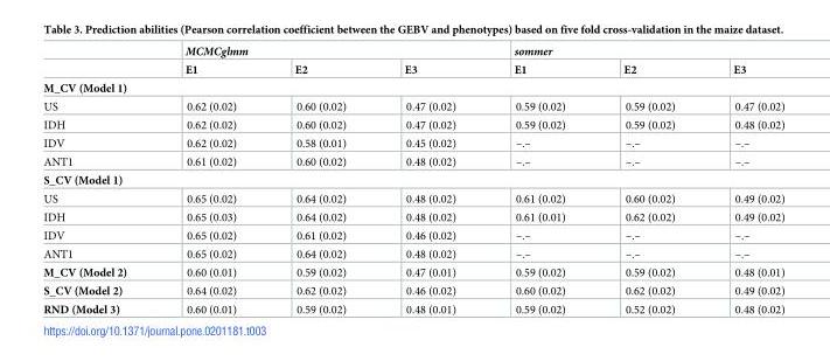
<table><thead><tr><td rowspan="2"></td><td colspan="3">MCMCglmm</td><td colspan="3">sommer</td></tr><tr><td>E1</td><td>E2</td><td>E3</td><td>E1</td><td>E2</td><td>E3</td></tr></thead><tbody><tr><td colspan="7">M_CV (Model 1)</td></tr><tr><td>US</td><td>0.62 (0.02)</td><td>0.60 (0.02)</td><td>0.47 (0.02)</td><td>0.59 (0.02)</td><td>0.59 (0.02)</td><td>0.47 (0.02)</td></tr><tr><td>IDH</td><td>0.62 (0.02)</td><td>0.60 (0.02)</td><td>0.47 (0.02)</td><td>0.59 (0.02)</td><td>0.59 (0.02)</td><td>0.48 (0.02)</td></tr><tr><td>IDV</td><td>0.62 (0.02)</td><td>0.58 (0.01)</td><td>0.45 (0.02)</td><td>–.–</td><td>–.–</td><td>–.–</td></tr><tr><td>ANT1</td><td>0.61 (0.02)</td><td>0.60 (0.02)</td><td>0.48 (0.02)</td><td>–.–</td><td>–.–</td><td>–.–</td></tr><tr><td colspan="7">S_CV (Model 1)</td></tr><tr><td>US</td><td>0.65 (0.02)</td><td>0.64 (0.02)</td><td>0.48 (0.02)</td><td>0.61 (0.02)</td><td>0.60 (0.02)</td><td>0.49 (0.02)</td></tr><tr><td>IDH</td><td>0.65 (0.03)</td><td>0.64 (0.02)</td><td>0.48 (0.02)</td><td>0.61 (0.01)</td><td>0.62 (0.02)</td><td>0.49 (0.02)</td></tr><tr><td>IDV</td><td>0.65 (0.02)</td><td>0.61 (0.02)</td><td>0.46 (0.02)</td><td>–.–</td><td>–.–</td><td>–.–</td></tr><tr><td>ANT1</td><td>0.65 (0.02)</td><td>0.64 (0.02)</td><td>0.48 (0.02)</td><td>–.–</td><td>–.–</td><td>–.–</td></tr><tr><td>M_CV (Model 2)</td><td>0.60 (0.01)</td><td>0.59 (0.02)</td><td>0.47 (0.01)</td><td>0.59 (0.02)</td><td>0.59 (0.02)</td><td>0.48 (0.01)</td></tr><tr><td>S_CV (Model 2)</td><td>0.64 (0.02)</td><td>0.62 (0.02)</td><td>0.46 (0.02)</td><td>0.60 (0.02)</td><td>0.62 (0.02)</td><td>0.49 (0.02)</td></tr><tr><td>RND (Model 3)</td><td>0.60 (0.01)</td><td>0.59 (0.02)</td><td>0.48 (0.01)</td><td>0.59 (0.02)</td><td>0.52 (0.02)</td><td>0.48 (0.02)</td></tr></tbody></table>